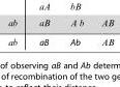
<table><tbody><tr><td>aB</td><td>Ab</td></tr></tbody></table>